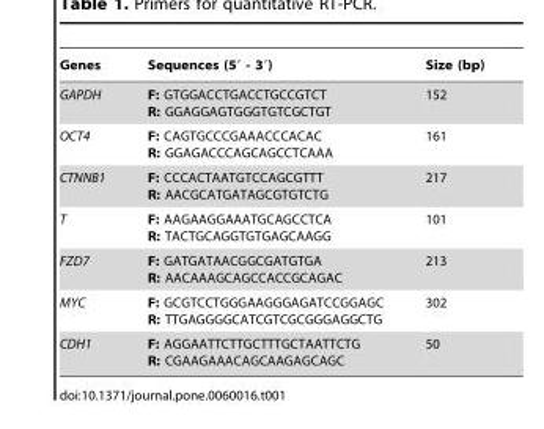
<table><thead><tr><td>Genes</td><td>Sequences (5′ - 3′)</td><td>Size (bp)</td></tr></thead><tbody><tr><td>GAPDH</td><td>F: GTGGACCTGACCTGCCGTCT R: GGAGGAGTGGGTGTCGCTGT</td><td>152</td></tr><tr><td>OCT4</td><td>F: CAGTGCCCGAAACCCACAC R: GGAGACCCAGCAGCCTCAAA</td><td>161</td></tr><tr><td>CTNNB1</td><td>F: CCCACTAATGTCCAGCGTTT R: AACGCATGATAGCGTGTCTG</td><td>217</td></tr><tr><td>T</td><td>F: AAGAAGGAAATGCAGCCTCA R: TACTGCAGGTGTGAGCAAGG</td><td>101</td></tr><tr><td>FZD7</td><td>F: GATGATAACGGCGATGTGA R: AACAAAGCAGCCACCGCAGAC</td><td>213</td></tr><tr><td>MYC</td><td>F: GCGTCCTGGGAAGGGAGATCCGGAGC R: TTGAGGGGCATCGTCGCGGGAGGCTG</td><td>302</td></tr><tr><td>CDH1</td><td>F: AGGAATTCTTGCTTTGCTAATTCTG R: CGAAGAAACAGCAAGAGCAGC</td><td>50</td></tr></tbody></table>